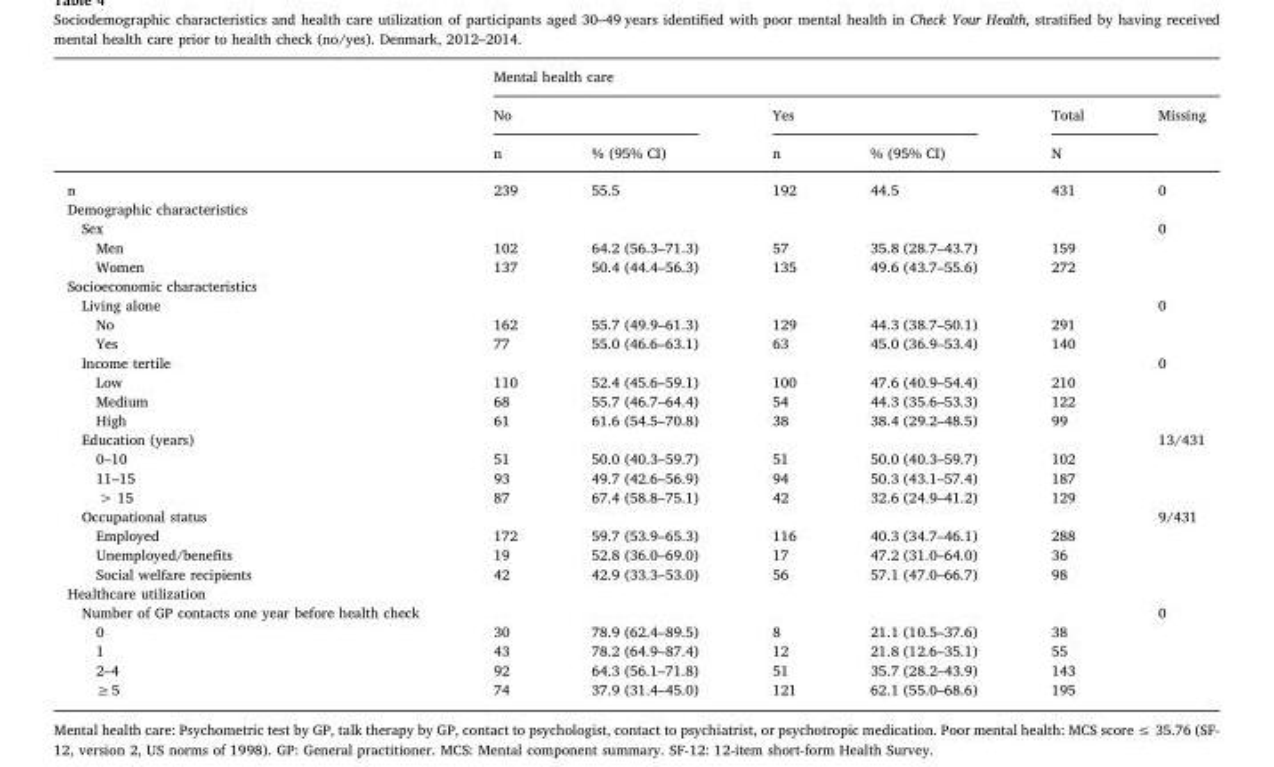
<table><thead><tr><td rowspan="3"></td><td colspan="6">Mental health care</td></tr><tr><td colspan="2">No</td><td colspan="2">Yes</td><td rowspan="2">Total N</td><td rowspan="2">Missing</td></tr><tr><td>n</td><td>% (95% CI)</td><td>n</td><td>% (95% CI)</td></tr></thead><tbody><tr><td>n</td><td>239</td><td>55.5</td><td>192</td><td>44.5</td><td>431</td><td>0</td></tr><tr><td colspan="7">Demographic characteristics</td></tr><tr><td>Sex</td><td></td><td></td><td></td><td></td><td></td><td>0</td></tr><tr><td>Men</td><td>102</td><td>64.2 (56.3–71.3)</td><td>57</td><td>35.8 (28.7–43.7)</td><td>159</td><td></td></tr><tr><td>Women</td><td>137</td><td>50.4 (44.4–56.3)</td><td>135</td><td>49.6 (43.7–55.6)</td><td>272</td><td></td></tr><tr><td colspan="7">Socioeconomic characteristics</td></tr><tr><td>Living alone</td><td></td><td></td><td></td><td></td><td></td><td>0</td></tr><tr><td>No</td><td>162</td><td>55.7 (49.9–61.3)</td><td>129</td><td>44.3 (38.7–50.1)</td><td>291</td><td></td></tr><tr><td>Yes</td><td>77</td><td>55.0 (46.6–63.1)</td><td>63</td><td>45.0 (36.9–53.4)</td><td>140</td><td></td></tr><tr><td>Income tertile</td><td></td><td></td><td></td><td></td><td></td><td>0</td></tr><tr><td>Low</td><td>110</td><td>52.4 (45.6–59.1)</td><td>100</td><td>47.6 (40.9–54.4)</td><td>210</td><td></td></tr><tr><td>Medium</td><td>68</td><td>55.7 (46.7–64.4)</td><td>54</td><td>44.3 (35.6–53.3)</td><td>122</td><td></td></tr><tr><td>High</td><td>61</td><td>61.6 (54.5–70.8)</td><td>38</td><td>38.4 (29.2–48.5)</td><td>99</td><td></td></tr><tr><td>Education (years)</td><td></td><td></td><td></td><td></td><td></td><td>13/431</td></tr><tr><td>0–10</td><td>51</td><td>50.0 (40.3–59.7)</td><td>51</td><td>50.0 (40.3–59.7)</td><td>102</td><td></td></tr><tr><td>11–15</td><td>93</td><td>49.7 (42.6–56.9)</td><td>94</td><td>50.3 (43.1–57.4)</td><td>187</td><td></td></tr><tr><td>&gt; 15</td><td>87</td><td>67.4 (58.8–75.1)</td><td>42</td><td>32.6 (24.9–41.2)</td><td>129</td><td></td></tr><tr><td>Occupational status</td><td></td><td></td><td></td><td></td><td></td><td>9/431</td></tr><tr><td>Employed</td><td>172</td><td>59.7 (53.9–65.3)</td><td>116</td><td>40.3 (34.7–46.1)</td><td>288</td><td></td></tr><tr><td>Unemployed/benefits</td><td>19</td><td>52.8 (36.0–69.0)</td><td>17</td><td>47.2 (31.0–64.0)</td><td>36</td><td></td></tr><tr><td>Social welfare recipients</td><td>42</td><td>42.9 (33.3–53.0)</td><td>56</td><td>57.1 (47.0–66.7)</td><td>98</td><td></td></tr><tr><td colspan="7">Healthcare utilization</td></tr><tr><td>Number of GP contacts one year before health check</td><td></td><td></td><td></td><td></td><td></td><td>0</td></tr><tr><td>0</td><td>30</td><td>78.9 (62.4–89.5)</td><td>8</td><td>21.1 (10.5–37.6)</td><td>38</td><td></td></tr><tr><td>1</td><td>43</td><td>78.2 (64.9–87.4)</td><td>12</td><td>21.8 (12.6–35.1)</td><td>55</td><td></td></tr><tr><td>2–4</td><td>92</td><td>64.3 (56.1–71.8)</td><td>51</td><td>35.7 (28.2–43.9)</td><td>143</td><td></td></tr><tr><td>≥5</td><td>74</td><td>37.9 (31.4–45.0)</td><td>121</td><td>62.1 (55.0–68.6)</td><td>195</td><td></td></tr></tbody></table>